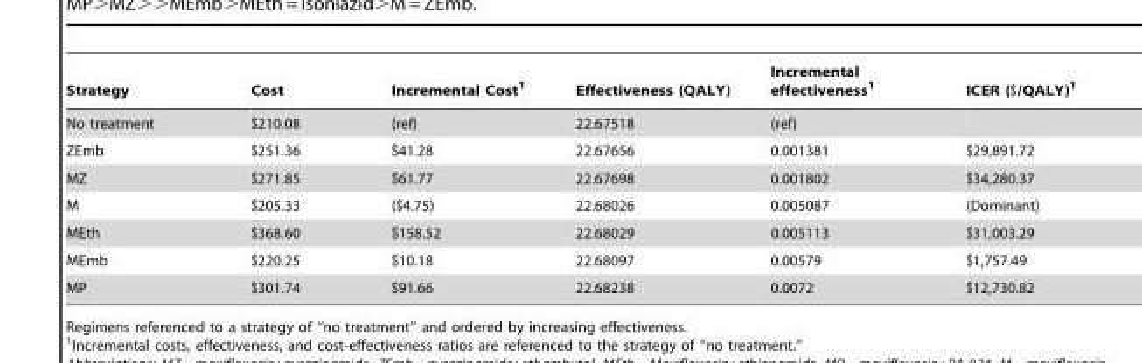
<table><thead><tr><td>Strategy</td><td>Cost</td><td>Incremental Cost<sup>1</sup></td><td>Effectiveness (QALY)</td><td>Incremental effectiveness<sup>1</sup></td><td>ICER ($/QALY)<sup>1</sup></td></tr></thead><tbody><tr><td>No treatment</td><td>$210.08</td><td>(ref)</td><td>22.67518</td><td>(ref)</td><td></td></tr><tr><td>ZEmb</td><td>$251.36</td><td>$41.28</td><td>22.67656</td><td>0.001381</td><td>$29,891.72</td></tr><tr><td>MZ</td><td>$271.85</td><td>$61.77</td><td>22.67698</td><td>0.001802</td><td>$34,280.37</td></tr><tr><td>M</td><td>$205.33</td><td>($4.75)</td><td>22.68026</td><td>0.005087</td><td>(Dominant)</td></tr><tr><td>MEth</td><td>$368.60</td><td>$158.52</td><td>22.68029</td><td>0.005113</td><td>$31,003.29</td></tr><tr><td>MEmb</td><td>$220.25</td><td>$10.18</td><td>22.68097</td><td>0.00579</td><td>$1,757.49</td></tr><tr><td>MP</td><td>$301.74</td><td>$91.66</td><td>22.68238</td><td>0.0072</td><td>$12,730.82</td></tr></tbody></table>